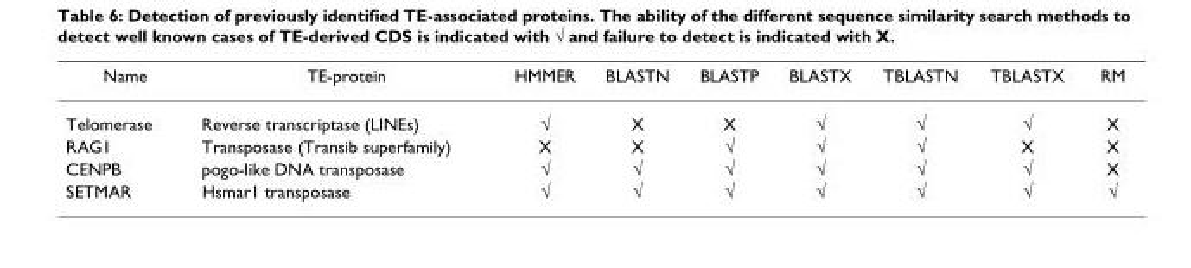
<table><thead><tr><td>Name</td><td>TE-protein</td><td>HMMER</td><td>BLASTN</td><td>BLASTP</td><td>BLASTX</td><td>TBLASTN</td><td>TBLASTX</td><td>RM</td></tr></thead><tbody><tr><td>Telomerase</td><td>Reverse transcriptase (LINEs)</td><td>√</td><td>X</td><td>X</td><td>√</td><td>√</td><td>√</td><td>X</td></tr><tr><td>RAG1</td><td>Transposase (Transib superfamily)</td><td>X</td><td>X</td><td>√</td><td>√</td><td>√</td><td>X</td><td>X</td></tr><tr><td>CENPB</td><td>pogo-like DNA transposase</td><td>√</td><td>√</td><td>√</td><td>√</td><td>√</td><td>√</td><td>X</td></tr><tr><td>SETMAR</td><td>Hsmar1 transposase</td><td>√</td><td>√</td><td>√</td><td>√</td><td>√</td><td>√</td><td>√</td></tr></tbody></table>